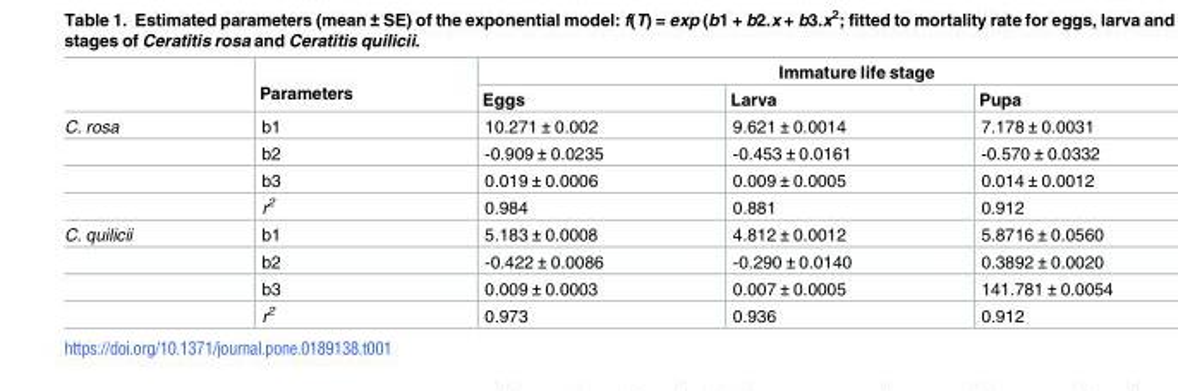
<table><thead><tr><td rowspan="2"></td><td rowspan="2">Parameters</td><td colspan="3">Immature life stage</td></tr><tr><td>Eggs</td><td>Larva</td><td>Pupa</td></tr></thead><tbody><tr><td rowspan="4">C. rosa</td><td>b1</td><td>10.271 ± 0.002</td><td>9.621 ± 0.0014</td><td>7.178 ± 0.0031</td></tr><tr><td>b2</td><td>-0.909 ± 0.0235</td><td>-0.453 ± 0.0161</td><td>-0.570 ± 0.0332</td></tr><tr><td>b3</td><td>0.019 ± 0.0006</td><td>0.009 ± 0.0005</td><td>0.014 ± 0.0012</td></tr><tr><td>r<sup>2</sup></td><td>0.984</td><td>0.881</td><td>0.912</td></tr><tr><td rowspan="4">C. quilicii</td><td>b1</td><td>5.183 ± 0.0008</td><td>4.812 ± 0.0012</td><td>5.8716 ± 0.0560</td></tr><tr><td>b2</td><td>-0.422 ± 0.0086</td><td>-0.290 ± 0.0140</td><td>0.3892 ± 0.0020</td></tr><tr><td>b3</td><td>0.009 ± 0.0003</td><td>0.007 ± 0.0005</td><td>141.781 ± 0.0054</td></tr><tr><td>r<sup>2</sup></td><td>0.973</td><td>0.936</td><td>0.912</td></tr></tbody></table>